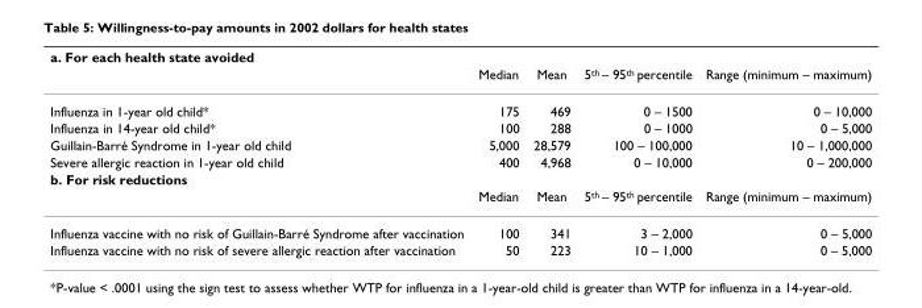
<table><thead><tr><td rowspan="2">a. For each health state avoided</td><td rowspan="2">Median</td><td rowspan="2">Mean</td><td rowspan="2">5<sup>th</sup> – 95<sup>th</sup> percentile</td><td rowspan="2">Range (minimum – maximum)</td></tr><tr></tr></thead><tbody><tr><td>Influenza in 1-year old child*</td><td>175</td><td>469</td><td>0 – 1500</td><td>0 – 10,000</td></tr><tr><td>Influenza in 14-year old child*</td><td>100</td><td>288</td><td>0 – 1000</td><td>0 – 5,000</td></tr><tr><td>Guillain-Barré Syndrome in 1-year old child</td><td>5,000</td><td>28,579</td><td>100 – 100,000</td><td>10 – 1,000,000</td></tr><tr><td>Severe allergic reaction in 1-year old child</td><td>400</td><td>4,968</td><td>0 – 10,000</td><td>0 – 200,000</td></tr><tr><td colspan="5">b. For risk reductions</td></tr><tr><td></td><td>Median</td><td>Mean</td><td>5<sup>th</sup> – 95<sup>th</sup> percentile</td><td>Range (minimum – maximum)</td></tr><tr><td>Influenza vaccine with no risk of Guillain-Barré Syndrome after vaccination</td><td>100</td><td>341</td><td>3 – 2,000</td><td>0 – 5,000</td></tr><tr><td>Influenza vaccine with no risk of severe allergic reaction after vaccination</td><td>50</td><td>223</td><td>10 – 1,000</td><td>0 – 5,000</td></tr></tbody></table>